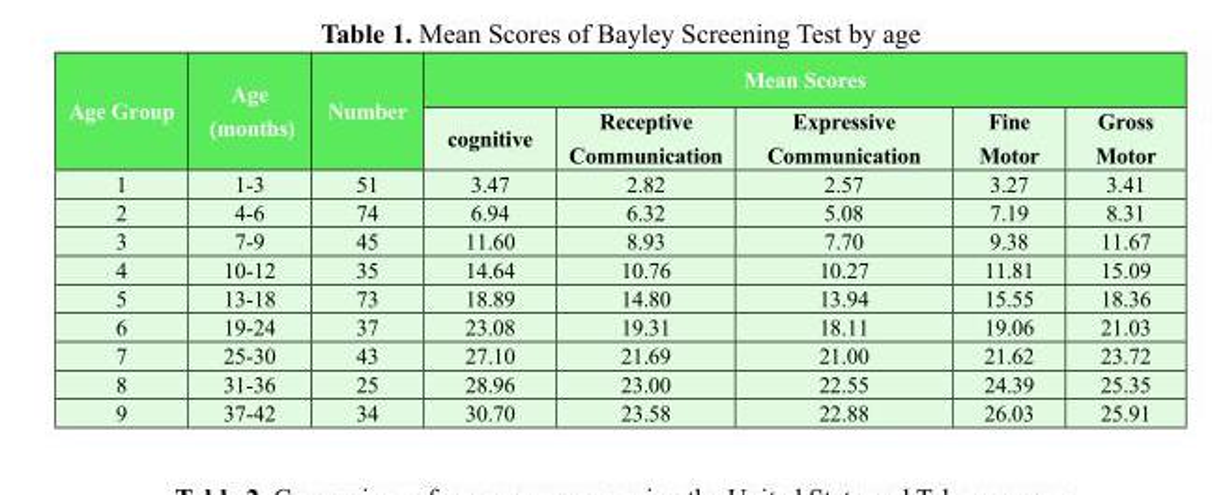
<table><thead><tr><td rowspan="2">Age Group</td><td rowspan="2">Age (months)</td><td rowspan="2">Number</td><td colspan="5">Mean Scores</td></tr><tr><td>cognitive</td><td>Receptive Communication</td><td>Expressive Communication</td><td>Fine Motor</td><td>Gross Motor</td></tr></thead><tbody><tr><td>1</td><td>1-3</td><td>51</td><td>3.47</td><td>2.82</td><td>2.57</td><td>3.27</td><td>3.41</td></tr><tr><td>2</td><td>4-6</td><td>74</td><td>6.94</td><td>6.32</td><td>5.08</td><td>7.19</td><td>8.31</td></tr><tr><td>3</td><td>7-9</td><td>45</td><td>11.60</td><td>8.93</td><td>7.70</td><td>9.38</td><td>11.67</td></tr><tr><td>4</td><td>10-12</td><td>35</td><td>14.64</td><td>10.76</td><td>10.27</td><td>11.81</td><td>15.09</td></tr><tr><td>5</td><td>13-18</td><td>73</td><td>18.89</td><td>14.80</td><td>13.94</td><td>15.55</td><td>18.36</td></tr><tr><td>6</td><td>19-24</td><td>37</td><td>23.08</td><td>19.31</td><td>18.11</td><td>19.06</td><td>21.03</td></tr><tr><td>7</td><td>25-30</td><td>43</td><td>27.10</td><td>21.69</td><td>21.00</td><td>21.62</td><td>23.72</td></tr><tr><td>8</td><td>31-36</td><td>25</td><td>28.96</td><td>23.00</td><td>22.55</td><td>24.39</td><td>25.35</td></tr><tr><td>9</td><td>37-42</td><td>34</td><td>30.70</td><td>23.58</td><td>22.88</td><td>26.03</td><td>25.91</td></tr></tbody></table>